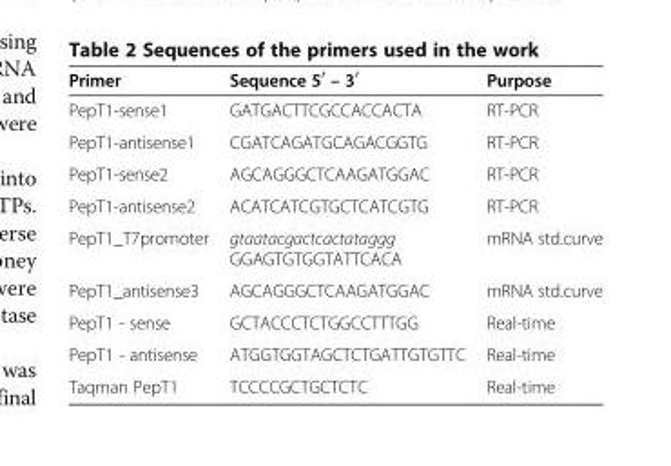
<table><thead><tr><td>Primer</td><td>Sequence 5<sup>′</sup> – 3<sup>′</sup></td><td>Purpose</td></tr></thead><tbody><tr><td>PepT1-sense1</td><td>GATGACTTCGCCACCACTA</td><td>RT-PCR</td></tr><tr><td>PepT1-antisense1</td><td>CGATCAGATGCAGACGGTG</td><td>RT-PCR</td></tr><tr><td>PepT1-sense2</td><td>AGCAGGGCTCAAGATGGAC</td><td>RT-PCR</td></tr><tr><td>PepT1-antisense2</td><td>ACATCATCGTGCTCATCGTG</td><td>RT-PCR</td></tr><tr><td>PepT1_T7promoter</td><td>gtaatacgactcactataggg GGAGTGTGGTATTCACA</td><td>mRNA std.curve</td></tr><tr><td>PepT1_antisense3</td><td>AGCAGGGCTCAAGATGGAC</td><td>mRNA std.curve</td></tr><tr><td>PepT1 - sense</td><td>GCTACCCTCTGGCCTTTGG</td><td>Real-time</td></tr><tr><td>PepT1 - antisense</td><td>ATGGTGGTAGCTCTGATTGTGTTC</td><td>Real-time</td></tr><tr><td>Taqman PepT1</td><td>TCCCCGCTGCTCTC</td><td>Real-time</td></tr></tbody></table>